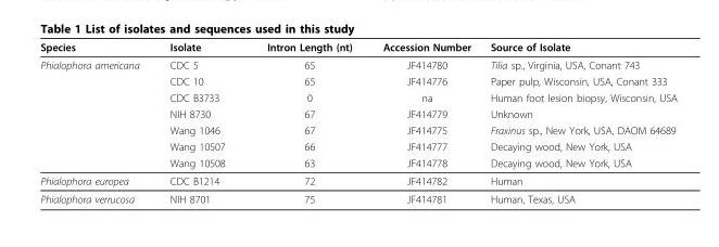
<table><thead><tr><td>Species</td><td>Isolate</td><td>Intron Length (nt)</td><td>Accession Number</td><td>Source of Isolate</td></tr></thead><tbody><tr><td rowspan="7">Phialophora americana</td><td>CDC 5</td><td>65</td><td>JF414780</td><td>Tilia sp., Virginia, USA, Conant 743</td></tr><tr><td>CDC 10</td><td>65</td><td>JF414776</td><td>Paper pulp, Wisconsin, USA, Conant 333</td></tr><tr><td>CDC B3733</td><td>0</td><td>na</td><td>Human foot lesion biopsy, Wisconsin, USA</td></tr><tr><td>NIH 8730</td><td>67</td><td>JF414779</td><td>Unknown</td></tr><tr><td>Wang 1046</td><td>67</td><td>JF414775</td><td>Fraxinus sp., New York, USA, DAOM 64689</td></tr><tr><td>Wang 10507</td><td>66</td><td>JF414777</td><td>Decaying wood, New York, USA</td></tr><tr><td>Wang 10508</td><td>63</td><td>JF414778</td><td>Decaying wood, New York, USA</td></tr><tr><td>Phialophora europea</td><td>CDC B1214</td><td>72</td><td>JF414782</td><td>Human</td></tr><tr><td>Phialophora verrucosa</td><td>NIH 8701</td><td>75</td><td>JF414781</td><td>Human, Texas, USA</td></tr></tbody></table>